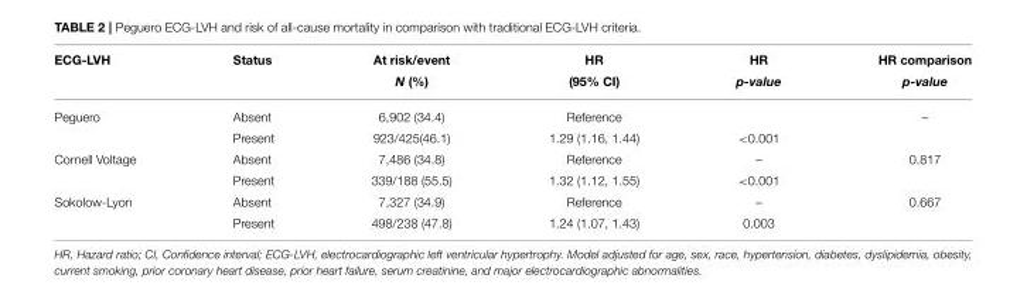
<table><thead><tr><td rowspan="2">ECG-LVH</td><td rowspan="2">Status</td><td rowspan="2">At risk/event N (%)</td><td rowspan="2">HR (95% CI)</td><td rowspan="2">HR p-value</td><td rowspan="2">HR comparison p-value</td></tr><tr></tr></thead><tbody><tr><td rowspan="2">Peguero</td><td>Absent</td><td>6,902 (34.4)</td><td>Reference</td><td></td><td>–</td></tr><tr><td>Present</td><td>923/425(46.1)</td><td>1.29 (1.16, 1.44)</td><td>&lt;0.001</td><td></td></tr><tr><td rowspan="2">Cornell Voltage</td><td>Absent</td><td>7,486 (34.8)</td><td>Reference</td><td>–</td><td>0.817</td></tr><tr><td>Present</td><td>339/188 (55.5)</td><td>1.32 (1.12, 1.55)</td><td>&lt;0.001</td><td></td></tr><tr><td rowspan="2">Sokolow-Lyon</td><td>Absent</td><td>7,327 (34.9)</td><td>Reference</td><td>–</td><td>0.667</td></tr><tr><td>Present</td><td>498/238 (47.8)</td><td>1.24 (1.07, 1.43)</td><td>0.003</td><td></td></tr></tbody></table>